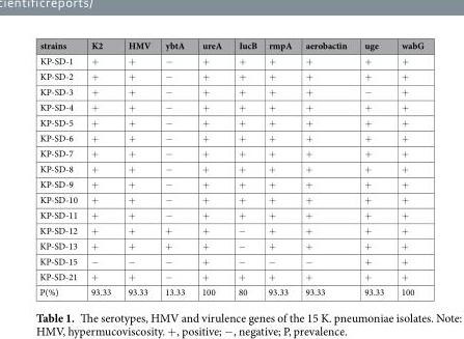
<table><thead><tr><td>strains</td><td>K2</td><td>HMV</td><td>ybtA</td><td>ureA</td><td>IucB</td><td>rmpA</td><td>aerobactin</td><td>uge</td><td>wabG</td></tr></thead><tbody><tr><td>KP-SD-1</td><td>+</td><td>+</td><td>−</td><td>+</td><td>+</td><td>+</td><td>+</td><td>+</td><td>+</td></tr><tr><td>KP-SD-2</td><td>+</td><td>+</td><td>−</td><td>+</td><td>+</td><td>+</td><td>+</td><td>+</td><td>+</td></tr><tr><td>KP-SD-3</td><td>+</td><td>+</td><td>−</td><td>+</td><td>+</td><td>+</td><td>+</td><td>−</td><td>+</td></tr><tr><td>KP-SD-4</td><td>+</td><td>+</td><td>−</td><td>+</td><td>+</td><td>+</td><td>+</td><td>+</td><td>+</td></tr><tr><td>KP-SD-5</td><td>+</td><td>+</td><td>−</td><td>+</td><td>+</td><td>+</td><td>+</td><td>+</td><td>+</td></tr><tr><td>KP-SD-6</td><td>+</td><td>+</td><td>−</td><td>+</td><td>+</td><td>+</td><td>+</td><td>+</td><td>+</td></tr><tr><td>KP-SD-7</td><td>+</td><td>+</td><td>−</td><td>+</td><td>+</td><td>+</td><td>+</td><td>+</td><td>+</td></tr><tr><td>KP-SD-8</td><td>+</td><td>+</td><td>−</td><td>+</td><td>+</td><td>+</td><td>+</td><td>+</td><td>+</td></tr><tr><td>KP-SD-9</td><td>+</td><td>+</td><td>−</td><td>+</td><td>+</td><td>+</td><td>+</td><td>+</td><td>+</td></tr><tr><td>KP-SD-10</td><td>+</td><td>+</td><td>−</td><td>+</td><td>+</td><td>+</td><td>+</td><td>+</td><td>+</td></tr><tr><td>KP-SD-11</td><td>+</td><td>+</td><td>−</td><td>+</td><td>+</td><td>+</td><td>+</td><td>+</td><td>+</td></tr><tr><td>KP-SD-12</td><td>+</td><td>+</td><td>+</td><td>+</td><td>−</td><td>+</td><td>+</td><td>+</td><td>+</td></tr><tr><td>KP-SD-13</td><td>+</td><td>+</td><td>+</td><td>+</td><td>−</td><td>+</td><td>+</td><td>+</td><td>+</td></tr><tr><td>KP-SD-15</td><td>−</td><td>−</td><td>−</td><td>+</td><td>−</td><td>−</td><td>−</td><td>+</td><td>+</td></tr><tr><td>KP-SD-21</td><td>+</td><td>+</td><td>−</td><td>+</td><td>+</td><td>+</td><td>+</td><td>+</td><td>+</td></tr><tr><td>P(%)</td><td>93.33</td><td>93.33</td><td>13.33</td><td>100</td><td>80</td><td>93.33</td><td>93.33</td><td>93.33</td><td>100</td></tr></tbody></table>